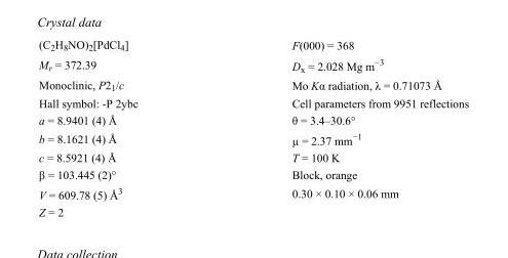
<table><tbody><tr><td>(C<sub>2</sub>H<sub>8</sub>NO)<sub>2</sub>[PdCl<sub>4</sub>]</td><td>F(000) = 368</td></tr><tr><td>M<sub>r</sub> = 372.39</td><td>D<sub>x</sub> = 2.028 Mg m<sup>−3</sup></td></tr><tr><td>Monoclinic, P2<sub>1</sub>/c</td><td>Mo Kα radiation, λ = 0.71073 Å</td></tr><tr><td>Hall symbol: -P 2ybc</td><td>Cell parameters from 9951 reflections</td></tr><tr><td>a = 8.9401 (4) Å</td><td>θ = 3.4–30.6°</td></tr><tr><td>b = 8.1621 (4) Å</td><td>µ = 2.37 mm<sup>−1</sup></td></tr><tr><td>c = 8.5921 (4) Å</td><td>T = 100 K</td></tr><tr><td>β = 103.445 (2)°</td><td>Block, orange</td></tr><tr><td>V = 609.78 (5) Å<sup>3</sup></td><td>0.30 × 0.10 × 0.06 mm</td></tr><tr><td>Z = 2</td><td></td></tr></tbody></table>